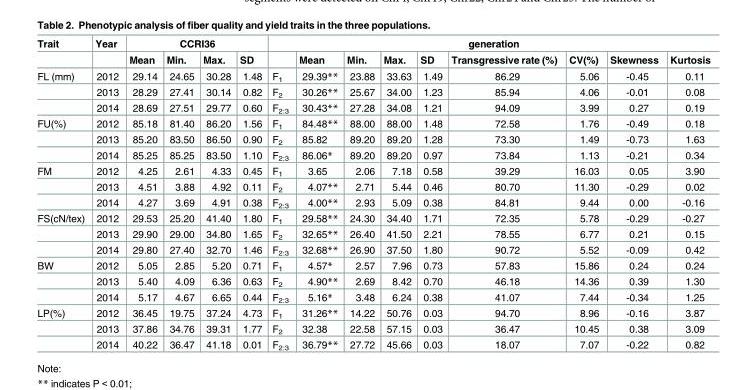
<table><thead><tr><td rowspan="2">Trait</td><td rowspan="2">Year</td><td colspan="4">CCRI36</td><td colspan="9">generation</td></tr><tr><td>Mean</td><td>Min.</td><td>Max.</td><td>SD</td><td></td><td>Mean</td><td>Min.</td><td>Max.</td><td>SD</td><td>Transgressive rate (%)</td><td>CV(%)</td><td>Skewness</td><td>Kurtosis</td></tr></thead><tbody><tr><td rowspan="3">FL (mm)</td><td>2012</td><td>29.14</td><td>24.65</td><td>30.28</td><td>1.48</td><td>F<sub>1</sub></td><td>29.39**</td><td>23.88</td><td>33.63</td><td>1.49</td><td>86.29</td><td>5.06</td><td>-0.45</td><td>0.11</td></tr><tr><td>2013</td><td>28.29</td><td>27.41</td><td>30.14</td><td>0.82</td><td>F<sub>2</sub></td><td>30.26**</td><td>25.67</td><td>34.00</td><td>1.23</td><td>85.94</td><td>4.06</td><td>-0.01</td><td>0.08</td></tr><tr><td>2014</td><td>28.69</td><td>27.51</td><td>29.77</td><td>0.60</td><td>F<sub>2:3</sub></td><td>30.43**</td><td>27.28</td><td>34.08</td><td>1.21</td><td>94.09</td><td>3.99</td><td>0.27</td><td>0.19</td></tr><tr><td rowspan="3">FU(%)</td><td>2012</td><td>85.18</td><td>81.40</td><td>86.20</td><td>1.56</td><td>F<sub>1</sub></td><td>84.48**</td><td>88.00</td><td>88.00</td><td>1.48</td><td>72.58</td><td>1.76</td><td>-0.49</td><td>0.18</td></tr><tr><td>2013</td><td>85.20</td><td>83.50</td><td>86.50</td><td>0.90</td><td>F<sub>2</sub></td><td>85.82</td><td>89.20</td><td>89.20</td><td>1.28</td><td>73.30</td><td>1.49</td><td>-0.73</td><td>1.63</td></tr><tr><td>2014</td><td>85.25</td><td>85.25</td><td>83.50</td><td>1.10</td><td>F<sub>2:3</sub></td><td>86.06*</td><td>89.20</td><td>89.20</td><td>0.97</td><td>73.84</td><td>1.13</td><td>-0.21</td><td>0.34</td></tr><tr><td rowspan="3">FM</td><td>2012</td><td>4.25</td><td>2.61</td><td>4.33</td><td>0.45</td><td>F<sub>1</sub></td><td>3.65</td><td>2.06</td><td>7.18</td><td>0.58</td><td>39.29</td><td>16.03</td><td>0.05</td><td>3.90</td></tr><tr><td>2013</td><td>4.51</td><td>3.88</td><td>4.92</td><td>0.11</td><td>F<sub>2</sub></td><td>4.07**</td><td>2.71</td><td>5.44</td><td>0.46</td><td>80.70</td><td>11.30</td><td>-0.29</td><td>0.02</td></tr><tr><td>2014</td><td>4.27</td><td>3.69</td><td>4.91</td><td>0.38</td><td>F<sub>2:3</sub></td><td>4.00**</td><td>2.93</td><td>5.09</td><td>0.38</td><td>84.81</td><td>9.44</td><td>0.00</td><td>-0.16</td></tr><tr><td rowspan="3">FS(cN/tex)</td><td>2012</td><td>29.53</td><td>25.20</td><td>41.40</td><td>1.80</td><td>F<sub>1</sub></td><td>29.58**</td><td>24.30</td><td>34.40</td><td>1.71</td><td>72.35</td><td>5.78</td><td>-0.29</td><td>-0.27</td></tr><tr><td>2013</td><td>29.90</td><td>29.00</td><td>34.80</td><td>1.65</td><td>F<sub>2</sub></td><td>32.65**</td><td>26.40</td><td>41.50</td><td>2.21</td><td>78.55</td><td>6.77</td><td>0.21</td><td>0.15</td></tr><tr><td>2014</td><td>29.80</td><td>27.40</td><td>32.70</td><td>1.46</td><td>F<sub>2:3</sub></td><td>32.68**</td><td>26.90</td><td>37.50</td><td>1.80</td><td>90.72</td><td>5.52</td><td>-0.09</td><td>0.42</td></tr><tr><td rowspan="3">BW</td><td>2012</td><td>5.05</td><td>2.85</td><td>5.20</td><td>0.71</td><td>F<sub>1</sub></td><td>4.57*</td><td>2.57</td><td>7.96</td><td>0.73</td><td>57.83</td><td>15.86</td><td>0.24</td><td>0.24</td></tr><tr><td>2013</td><td>5.40</td><td>4.09</td><td>6.36</td><td>0.63</td><td>F<sub>2</sub></td><td>4.90**</td><td>2.69</td><td>8.42</td><td>0.70</td><td>46.18</td><td>14.36</td><td>0.39</td><td>1.30</td></tr><tr><td>2014</td><td>5.17</td><td>4.67</td><td>6.65</td><td>0.44</td><td>F<sub>2:3</sub></td><td>5.16*</td><td>3.48</td><td>6.24</td><td>0.38</td><td>41.07</td><td>7.44</td><td>-0.34</td><td>1.25</td></tr><tr><td rowspan="3">LP(%)</td><td>2012</td><td>36.45</td><td>19.75</td><td>37.24</td><td>4.73</td><td>F<sub>1</sub></td><td>31.26**</td><td>14.22</td><td>50.76</td><td>0.03</td><td>94.70</td><td>8.96</td><td>-0.16</td><td>3.87</td></tr><tr><td>2013</td><td>37.86</td><td>34.76</td><td>39.31</td><td>1.77</td><td>F<sub>2</sub></td><td>32.38</td><td>22.58</td><td>57.15</td><td>0.03</td><td>36.47</td><td>10.45</td><td>0.38</td><td>3.09</td></tr><tr><td>2014</td><td>40.22</td><td>36.47</td><td>41.18</td><td>0.01</td><td>F<sub>2:3</sub></td><td>36.79**</td><td>27.72</td><td>45.66</td><td>0.03</td><td>18.07</td><td>7.07</td><td>-0.22</td><td>0.82</td></tr></tbody></table>